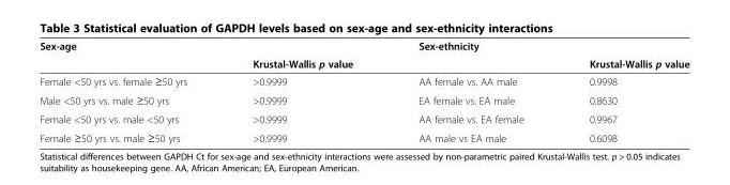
<table><thead><tr><td colspan="2">Sex-age</td><td colspan="2">Sex-ethnicity</td></tr><tr><td></td><td>Krustal-Wallis p value</td><td></td><td>Krustal-Wallis p value</td></tr></thead><tbody><tr><td>Female &lt;50 yrs vs. female ≥50 yrs</td><td>&gt;0.9999</td><td>AA female vs. AA male</td><td>0.9998</td></tr><tr><td>Male &lt;50 yrs vs. male ≥50 yrs</td><td>&gt;0.9999</td><td>EA female vs. EA male</td><td>0.8630</td></tr><tr><td>Female &lt;50 yrs vs. male &lt;50 yrs</td><td>&gt;0.9999</td><td>AA female vs. EA female</td><td>0.9967</td></tr><tr><td>Female ≥50 yrs vs. male ≥50 yrs</td><td>&gt;0.9999</td><td>AA male vs EA male</td><td>0.6098</td></tr></tbody></table>